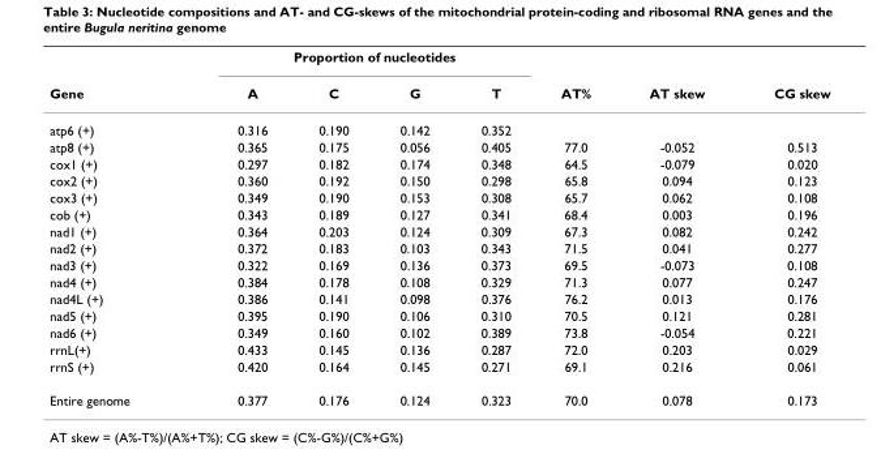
<table><thead><tr><td rowspan="2">Gene</td><td colspan="4">Proportion of nucleotides</td><td rowspan="2">AT%</td><td rowspan="2">AT skew</td><td rowspan="2">CG skew</td></tr><tr><td>A</td><td>C</td><td>G</td><td>T</td></tr></thead><tbody><tr><td>atp6 (+)</td><td>0.316</td><td>0.190</td><td>0.142</td><td>0.352</td><td></td><td></td><td></td></tr><tr><td>atp8 (+)</td><td>0.365</td><td>0.175</td><td>0.056</td><td>0.405</td><td>77.0</td><td>-0.052</td><td>0.513</td></tr><tr><td>cox1 (+)</td><td>0.297</td><td>0.182</td><td>0.174</td><td>0.348</td><td>64.5</td><td>-0.079</td><td>0.020</td></tr><tr><td>cox2 (+)</td><td>0.360</td><td>0.192</td><td>0.150</td><td>0.298</td><td>65.8</td><td>0.094</td><td>0.123</td></tr><tr><td>cox3 (+)</td><td>0.349</td><td>0.190</td><td>0.153</td><td>0.308</td><td>65.7</td><td>0.062</td><td>0.108</td></tr><tr><td>cob (+)</td><td>0.343</td><td>0.189</td><td>0.127</td><td>0.341</td><td>68.4</td><td>0.003</td><td>0.196</td></tr><tr><td>nad1 (+)</td><td>0.364</td><td>0.203</td><td>0.124</td><td>0.309</td><td>67.3</td><td>0.082</td><td>0.242</td></tr><tr><td>nad2 (+)</td><td>0.372</td><td>0.183</td><td>0.103</td><td>0.343</td><td>71.5</td><td>0.041</td><td>0.277</td></tr><tr><td>nad3 (+)</td><td>0.322</td><td>0.169</td><td>0.136</td><td>0.373</td><td>69.5</td><td>-0.073</td><td>0.108</td></tr><tr><td>nad4 (+)</td><td>0.384</td><td>0.178</td><td>0.108</td><td>0.329</td><td>71.3</td><td>0.077</td><td>0.247</td></tr><tr><td>nad4L (+)</td><td>0.386</td><td>0.141</td><td>0.098</td><td>0.376</td><td>76.2</td><td>0.013</td><td>0.176</td></tr><tr><td>nad5 (+)</td><td>0.395</td><td>0.190</td><td>0.106</td><td>0.310</td><td>70.5</td><td>0.121</td><td>0.281</td></tr><tr><td>nad6 (+)</td><td>0.349</td><td>0.160</td><td>0.102</td><td>0.389</td><td>73.8</td><td>-0.054</td><td>0.221</td></tr><tr><td>rrnL(+)</td><td>0.433</td><td>0.145</td><td>0.136</td><td>0.287</td><td>72.0</td><td>0.203</td><td>0.029</td></tr><tr><td>rrnS (+)</td><td>0.420</td><td>0.164</td><td>0.145</td><td>0.271</td><td>69.1</td><td>0.216</td><td>0.061</td></tr><tr><td>Entire genome</td><td>0.377</td><td>0.176</td><td>0.124</td><td>0.323</td><td>70.0</td><td>0.078</td><td>0.173</td></tr></tbody></table>